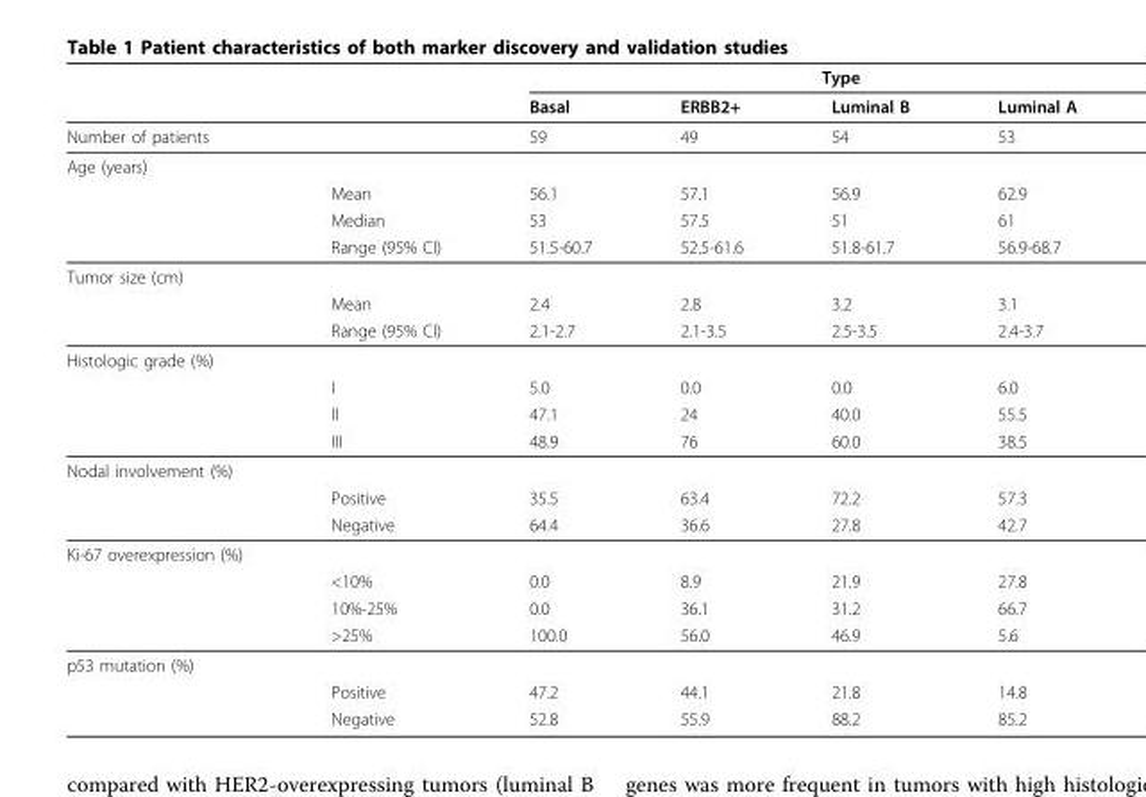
<table><thead><tr><td rowspan="2"></td><td rowspan="2"></td><td colspan="4">Type</td></tr><tr><td>Basal</td><td>ERBB2+</td><td>Luminal B</td><td>Luminal A</td></tr></thead><tbody><tr><td>Number of patients</td><td></td><td>59</td><td>49</td><td>54</td><td>53</td></tr><tr><td colspan="6">Age (years)</td></tr><tr><td></td><td>Mean</td><td>56.1</td><td>57.1</td><td>56.9</td><td>62.9</td></tr><tr><td></td><td>Median</td><td>53</td><td>57.5</td><td>51</td><td>61</td></tr><tr><td></td><td>Range (95% CI)</td><td>51.5-60.7</td><td>52.5-61.6</td><td>51.8-61.7</td><td>56.9-68.7</td></tr><tr><td colspan="6">Tumor size (cm)</td></tr><tr><td></td><td>Mean</td><td>2.4</td><td>2.8</td><td>3.2</td><td>3.1</td></tr><tr><td></td><td>Range (95% CI)</td><td>2.1-2.7</td><td>2.1-3.5</td><td>2.5-3.5</td><td>2.4-3.7</td></tr><tr><td colspan="6">Histologic grade (%)</td></tr><tr><td></td><td>I</td><td>5.0</td><td>0.0</td><td>0.0</td><td>6.0</td></tr><tr><td></td><td>II</td><td>47.1</td><td>24</td><td>40.0</td><td>55.5</td></tr><tr><td></td><td>III</td><td>48.9</td><td>76</td><td>60.0</td><td>38.5</td></tr><tr><td colspan="6">Nodal involvement (%)</td></tr><tr><td></td><td>Positive</td><td>35.5</td><td>63.4</td><td>72.2</td><td>57.3</td></tr><tr><td></td><td>Negative</td><td>64.4</td><td>36.6</td><td>27.8</td><td>42.7</td></tr><tr><td colspan="6">Ki-67 overexpression (%)</td></tr><tr><td></td><td>&lt;10%</td><td>0.0</td><td>8.9</td><td>21.9</td><td>27.8</td></tr><tr><td></td><td>10%-25%</td><td>0.0</td><td>36.1</td><td>31.2</td><td>66.7</td></tr><tr><td></td><td>&gt;25%</td><td>100.0</td><td>56.0</td><td>46.9</td><td>5.6</td></tr><tr><td colspan="6">p53 mutation (%)</td></tr><tr><td></td><td>Positive</td><td>47.2</td><td>44.1</td><td>21.8</td><td>14.8</td></tr><tr><td></td><td>Negative</td><td>52.8</td><td>55.9</td><td>88.2</td><td>85.2</td></tr></tbody></table>